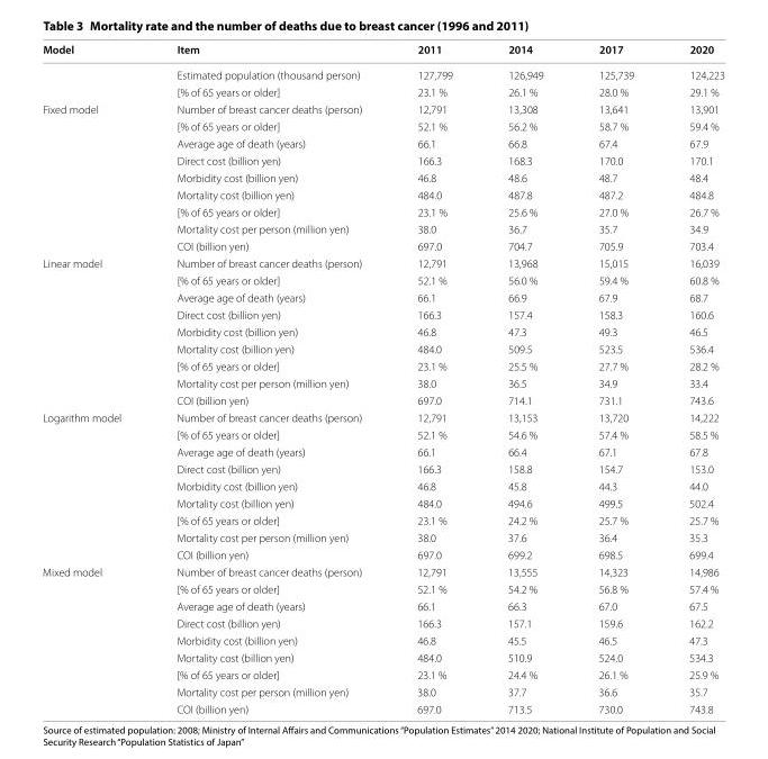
<table><thead><tr><td>Model</td><td>Item</td><td>2011</td><td>2014</td><td>2017</td><td>2020</td></tr></thead><tbody><tr><td rowspan="2"></td><td>Estimated population (thousand person)</td><td>127,799</td><td>126,949</td><td>125,739</td><td>124,223</td></tr><tr><td>[% of 65 years or older]</td><td>23.1 %</td><td>26.1 %</td><td>28.0 %</td><td>29.1 %</td></tr><tr><td rowspan="9">Fixed model</td><td>Number of breast cancer deaths (person)</td><td>12,791</td><td>13,308</td><td>13,641</td><td>13,901</td></tr><tr><td>[% of 65 years or older]</td><td>52.1 %</td><td>56.2 %</td><td>58.7 %</td><td>59.4 %</td></tr><tr><td>Average age of death (years)</td><td>66.1</td><td>66.8</td><td>67.4</td><td>67.9</td></tr><tr><td>Direct cost (billion yen)</td><td>166.3</td><td>168.3</td><td>170.0</td><td>170.1</td></tr><tr><td>Morbidity cost (billion yen)</td><td>46.8</td><td>48.6</td><td>48.7</td><td>48.4</td></tr><tr><td>Mortality cost (billion yen)</td><td>484.0</td><td>487.8</td><td>487.2</td><td>484.8</td></tr><tr><td>[% of 65 years or older]</td><td>23.1 %</td><td>25.6 %</td><td>27.0 %</td><td>26.7 %</td></tr><tr><td>Mortality cost per person (million yen)</td><td>38.0</td><td>36.7</td><td>35.7</td><td>34.9</td></tr><tr><td>COI (billion yen)</td><td>697.0</td><td>704.7</td><td>705.9</td><td>703.4</td></tr><tr><td rowspan="9">Linear model</td><td>Number of breast cancer deaths (person)</td><td>12,791</td><td>13,968</td><td>15,015</td><td>16,039</td></tr><tr><td>[% of 65 years or older]</td><td>52.1 %</td><td>56.0 %</td><td>59.4 %</td><td>60.8 %</td></tr><tr><td>Average age of death (years)</td><td>66.1</td><td>66.9</td><td>67.9</td><td>68.7</td></tr><tr><td>Direct cost (billion yen)</td><td>166.3</td><td>157.4</td><td>158.3</td><td>160.6</td></tr><tr><td>Morbidity cost (billion yen)</td><td>46.8</td><td>47.3</td><td>49.3</td><td>46.5</td></tr><tr><td>Mortality cost (billion yen)</td><td>484.0</td><td>509.5</td><td>523.5</td><td>536.4</td></tr><tr><td>[% of 65 years or older]</td><td>23.1 %</td><td>25.5 %</td><td>27.7 %</td><td>28.2 %</td></tr><tr><td>Mortality cost per person (million yen)</td><td>38.0</td><td>36.5</td><td>34.9</td><td>33.4</td></tr><tr><td>COI (billion yen)</td><td>697.0</td><td>714.1</td><td>731.1</td><td>743.6</td></tr><tr><td rowspan="9">Logarithm model</td><td>Number of breast cancer deaths (person)</td><td>12,791</td><td>13,153</td><td>13,720</td><td>14,222</td></tr><tr><td>[% of 65 years or older]</td><td>52.1 %</td><td>54.6 %</td><td>57.4 %</td><td>58.5 %</td></tr><tr><td>Average age of death (years)</td><td>66.1</td><td>66.4</td><td>67.1</td><td>67.8</td></tr><tr><td>Direct cost (billion yen)</td><td>166.3</td><td>158.8</td><td>154.7</td><td>153.0</td></tr><tr><td>Morbidity cost (billion yen)</td><td>46.8</td><td>45.8</td><td>44.3</td><td>44.0</td></tr><tr><td>Mortality cost (billion yen)</td><td>484.0</td><td>494.6</td><td>499.5</td><td>502.4</td></tr><tr><td>[% of 65 years or older]</td><td>23.1 %</td><td>24.2 %</td><td>25.7 %</td><td>25.7 %</td></tr><tr><td>Mortality cost per person (million yen)</td><td>38.0</td><td>37.6</td><td>36.4</td><td>35.3</td></tr><tr><td>COI (billion yen)</td><td>697.0</td><td>699.2</td><td>698.5</td><td>699.4</td></tr><tr><td rowspan="9">Mixed model</td><td>Number of breast cancer deaths (person)</td><td>12,791</td><td>13,555</td><td>14,323</td><td>14,986</td></tr><tr><td>[% of 65 years or older]</td><td>52.1 %</td><td>54.2 %</td><td>56.8 %</td><td>57.4 %</td></tr><tr><td>Average age of death (years)</td><td>66.1</td><td>66.3</td><td>67.0</td><td>67.5</td></tr><tr><td>Direct cost (billion yen)</td><td>166.3</td><td>157.1</td><td>159.6</td><td>162.2</td></tr><tr><td>Morbidity cost (billion yen)</td><td>46.8</td><td>45.5</td><td>46.5</td><td>47.3</td></tr><tr><td>Mortality cost (billion yen)</td><td>484.0</td><td>510.9</td><td>524.0</td><td>534.3</td></tr><tr><td>[% of 65 years or older]</td><td>23.1 %</td><td>24.4 %</td><td>26.1 %</td><td>25.9 %</td></tr><tr><td>Mortality cost per person (million yen)</td><td>38.0</td><td>37.7</td><td>36.6</td><td>35.7</td></tr><tr><td>COI (billion yen)</td><td>697.0</td><td>713.5</td><td>730.0</td><td>743.8</td></tr></tbody></table>